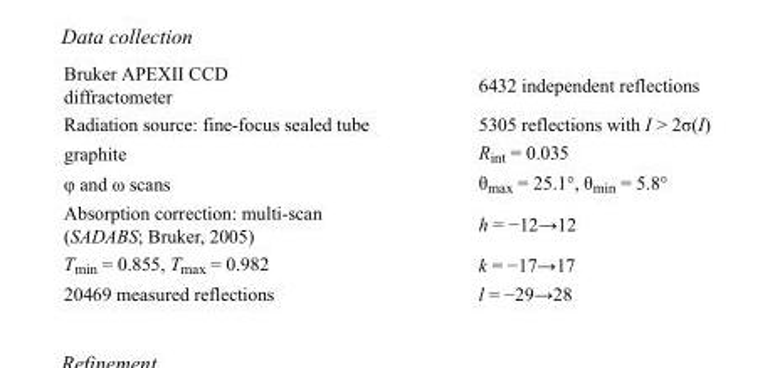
<table><tbody><tr><td>Bruker APEXII CCD diffractometer</td><td>6432 independent reflections</td></tr><tr><td>Radiation source: fine-focus sealed tube</td><td>5305 reflections with I &gt; 2σ(I)</td></tr><tr><td>graphite</td><td>R<sub>int</sub> = 0.035</td></tr><tr><td>φ and ω scans</td><td>θ<sub>max</sub> = 25.1°, θ<sub>min</sub> = 5.8°</td></tr><tr><td>Absorption correction: multi-scan (SADABS; Bruker, 2005)</td><td>h = −12→12</td></tr><tr><td>T<sub>min</sub> = 0.855, T<sub>max</sub> = 0.982</td><td>k = −17→17</td></tr><tr><td>20469 measured reflections</td><td>l = −29→28</td></tr></tbody></table>